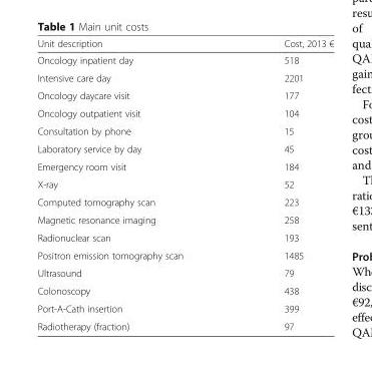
<table><thead><tr><td>Unit description</td><td>Cost, 2013 €</td></tr></thead><tbody><tr><td>Oncology inpatient day</td><td>518</td></tr><tr><td>Intensive care day</td><td>2201</td></tr><tr><td>Oncology daycare visit</td><td>177</td></tr><tr><td>Oncology outpatient visit</td><td>104</td></tr><tr><td>Consultation by phone</td><td>15</td></tr><tr><td>Laboratory service by day</td><td>45</td></tr><tr><td>Emergency room visit</td><td>184</td></tr><tr><td>X-ray</td><td>52</td></tr><tr><td>Computed tomography scan</td><td>223</td></tr><tr><td>Magnetic resonance imaging</td><td>258</td></tr><tr><td>Radionuclear scan</td><td>193</td></tr><tr><td>Positron emission tomography scan</td><td>1485</td></tr><tr><td>Ultrasound</td><td>79</td></tr><tr><td>Colonoscopy</td><td>438</td></tr><tr><td>Port-A-Cath insertion</td><td>399</td></tr><tr><td>Radiotherapy (fraction)</td><td>97</td></tr></tbody></table>